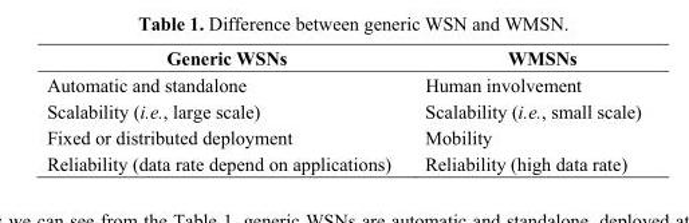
<table><thead><tr><td>Generic WSNs</td><td>WMSNs</td></tr></thead><tbody><tr><td>Automatic and standalone</td><td>Human involvement</td></tr><tr><td>Scalability (i.e., large scale)</td><td>Scalability (i.e., small scale)</td></tr><tr><td>Fixed or distributed deployment</td><td>Mobility</td></tr><tr><td>Reliability (data rate depend on applications)</td><td>Reliability (high data rate)</td></tr></tbody></table>